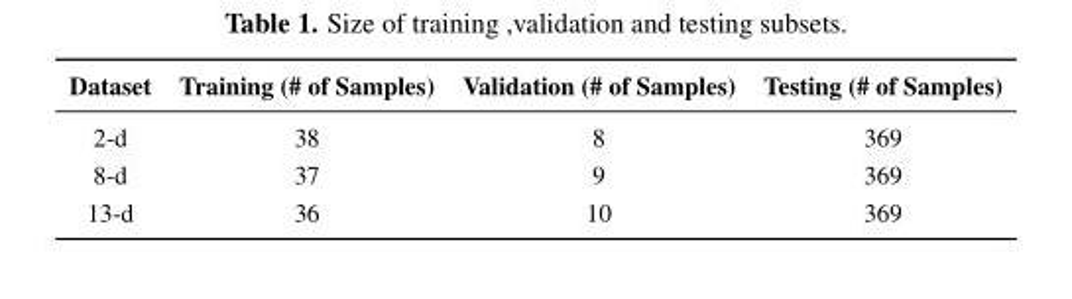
<table><thead><tr><td>Dataset</td><td>Training (# of Samples)</td><td>Validation (# of Samples)</td><td>Testing (# of Samples)</td></tr></thead><tbody><tr><td>2-d</td><td>38</td><td>8</td><td>369</td></tr><tr><td>8-d</td><td>37</td><td>9</td><td>369</td></tr><tr><td>13-d</td><td>36</td><td>10</td><td>369</td></tr></tbody></table>